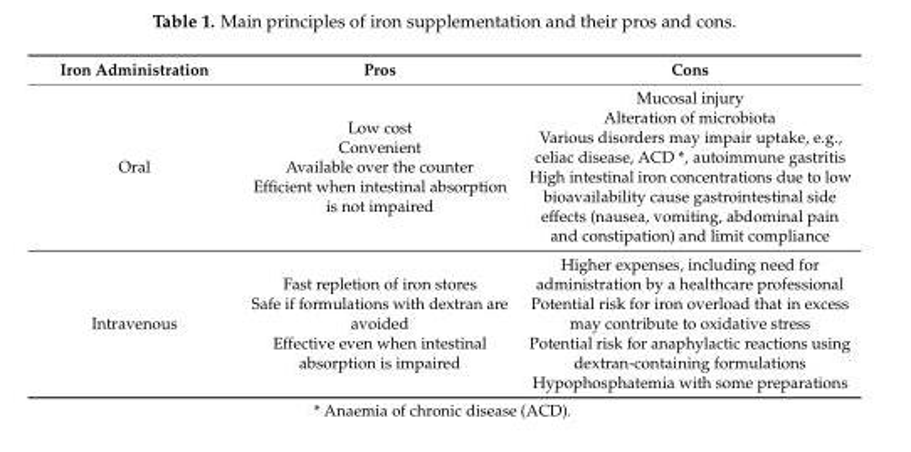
<table><thead><tr><td>Iron Administration</td><td>Pros</td><td>Cons</td></tr></thead><tbody><tr><td>Oral</td><td>Low cost Convenient Available over the counter Efficient when intestinal absorption is not impaired</td><td>Mucosal injury Alteration of microbiota Various disorders may impair uptake, e.g., celiac disease, ACD *, autoimmune gastritis High intestinal iron concentrations due to low bioavailability cause gastrointestinal side effects (nausea, vomiting, abdominal pain and constipation) and limit compliance</td></tr><tr><td>Intravenous</td><td>Fast repletion of iron stores Safe if formulations with dextran are avoided Effective even when intestinal absorption is impaired</td><td>Higher expenses, including need for administration by a healthcare professional Potential risk for iron overload that in excess may contribute to oxidative stress Potential risk for anaphylactic reactions using dextran-containing formulations Hypophosphatemia with some preparations</td></tr></tbody></table>